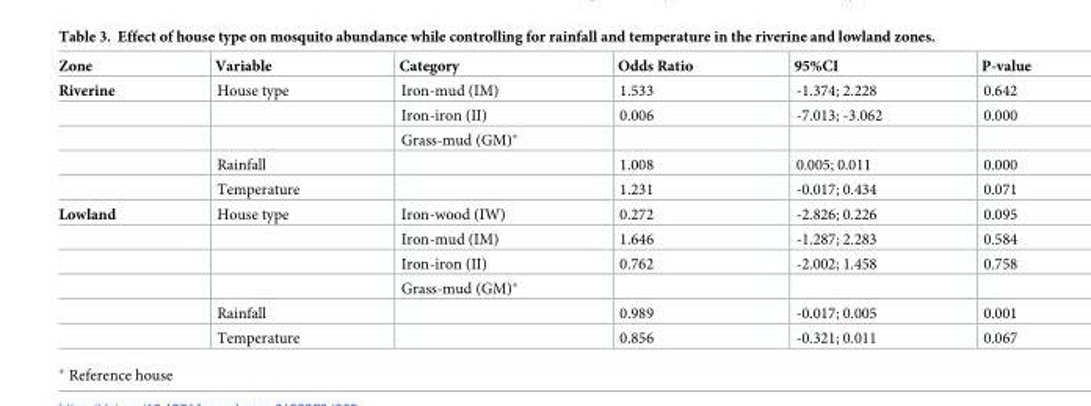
<table><thead><tr><td>Zone</td><td>Variable</td><td>Category</td><td>Odds Ratio</td><td>95%CI</td><td>P-value</td></tr></thead><tbody><tr><td rowspan="5">Riverine</td><td>House type</td><td>Iron-mud (IM)</td><td>1.533</td><td>-1.374; 2.228</td><td>0.642</td></tr><tr><td></td><td>Iron-iron (II)</td><td>0.006</td><td>-7.013; -3.062</td><td>0.000</td></tr><tr><td></td><td>Grass-mud (GM)*</td><td></td><td></td><td></td></tr><tr><td>Rainfall</td><td></td><td>1.008</td><td>0.005; 0.011</td><td>0.000</td></tr><tr><td>Temperature</td><td></td><td>1.231</td><td>-0.017; 0.434</td><td>0.071</td></tr><tr><td rowspan="6">Lowland</td><td>House type</td><td>Iron-wood (IW)</td><td>0.272</td><td>-2.826; 0.226</td><td>0.095</td></tr><tr><td></td><td>Iron-mud (IM)</td><td>1.646</td><td>-1.287; 2.283</td><td>0.584</td></tr><tr><td></td><td>Iron-iron (II)</td><td>0.762</td><td>-2.002; 1.458</td><td>0.758</td></tr><tr><td></td><td>Grass-mud (GM)*</td><td></td><td></td><td></td></tr><tr><td>Rainfall</td><td></td><td>0.989</td><td>-0.017; 0.005</td><td>0.001</td></tr><tr><td>Temperature</td><td></td><td>0.856</td><td>-0.321; 0.011</td><td>0.067</td></tr></tbody></table>